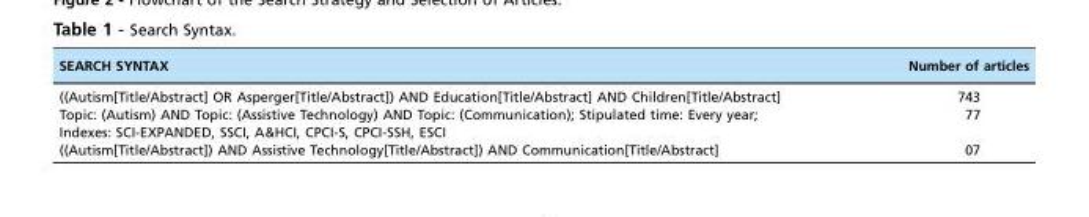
<table><thead><tr><td>SEARCH SYNTAX</td><td>Number of articles</td></tr></thead><tbody><tr><td>((Autism[Title/Abstract] OR Asperger[Title/Abstract]) AND Education[Title/Abstract] AND Children[Title/Abstract]</td><td>743</td></tr><tr><td>Topic: (Autism) AND Topic: (Assistive Technology) AND Topic: (Communication); Stipulated time: Every year; Indexes: SCI-EXPANDED, SSCI, A&amp;HCI, CPCI-S, CPCI-SSH, ESCI</td><td>77</td></tr><tr><td>((Autism[Title/Abstract]) AND Assistive Technology[Title/Abstract]) AND Communication[Title/Abstract]</td><td>07</td></tr></tbody></table>